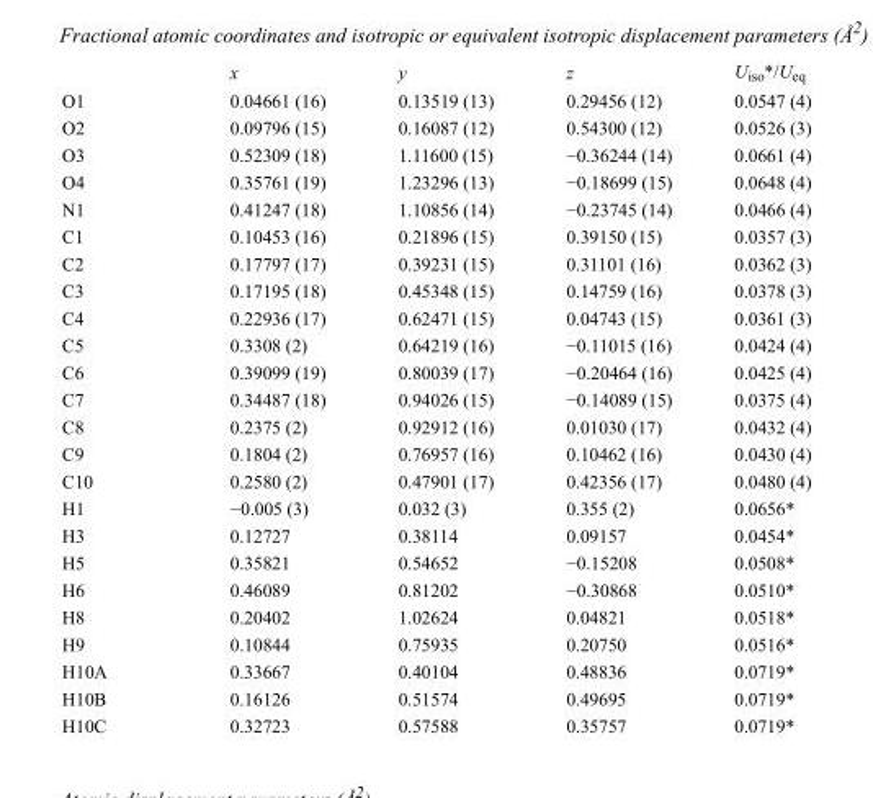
<table><thead><tr><td></td><td>x</td><td>y</td><td>z</td><td>U<sub>iso</sub>*/U<sub>eq</sub></td></tr></thead><tbody><tr><td>O1</td><td>0.04661 (16)</td><td>0.13519 (13)</td><td>0.29456 (12)</td><td>0.0547 (4)</td></tr><tr><td>O2</td><td>0.09796 (15)</td><td>0.16087 (12)</td><td>0.54300 (12)</td><td>0.0526 (3)</td></tr><tr><td>O3</td><td>0.52309 (18)</td><td>1.11600 (15)</td><td>−0.36244 (14)</td><td>0.0661 (4)</td></tr><tr><td>O4</td><td>0.35761 (19)</td><td>1.23296 (13)</td><td>−0.18699 (15)</td><td>0.0648 (4)</td></tr><tr><td>N1</td><td>0.41247 (18)</td><td>1.10856 (14)</td><td>−0.23745 (14)</td><td>0.0466 (4)</td></tr><tr><td>C1</td><td>0.10453 (16)</td><td>0.21896 (15)</td><td>0.39150 (15)</td><td>0.0357 (3)</td></tr><tr><td>C2</td><td>0.17797 (17)</td><td>0.39231 (15)</td><td>0.31101 (16)</td><td>0.0362 (3)</td></tr><tr><td>C3</td><td>0.17195 (18)</td><td>0.45348 (15)</td><td>0.14759 (16)</td><td>0.0378 (3)</td></tr><tr><td>C4</td><td>0.22936 (17)</td><td>0.62471 (15)</td><td>0.04743 (15)</td><td>0.0361 (3)</td></tr><tr><td>C5</td><td>0.3308 (2)</td><td>0.64219 (16)</td><td>−0.11015 (16)</td><td>0.0424 (4)</td></tr><tr><td>C6</td><td>0.39099 (19)</td><td>0.80039 (17)</td><td>−0.20464 (16)</td><td>0.0425 (4)</td></tr><tr><td>C7</td><td>0.34487 (18)</td><td>0.94026 (15)</td><td>−0.14089 (15)</td><td>0.0375 (4)</td></tr><tr><td>C8</td><td>0.2375 (2)</td><td>0.92912 (16)</td><td>0.01030 (17)</td><td>0.0432 (4)</td></tr><tr><td>C9</td><td>0.1804 (2)</td><td>0.76957 (16)</td><td>0.10462 (16)</td><td>0.0430 (4)</td></tr><tr><td>C10</td><td>0.2580 (2)</td><td>0.47901 (17)</td><td>0.42356 (17)</td><td>0.0480 (4)</td></tr><tr><td>H1</td><td>−0.005 (3)</td><td>0.032 (3)</td><td>0.355 (2)</td><td>0.0656*</td></tr><tr><td>H3</td><td>0.12727</td><td>0.38114</td><td>0.09157</td><td>0.0454*</td></tr><tr><td>H5</td><td>0.35821</td><td>0.54652</td><td>−0.15208</td><td>0.0508*</td></tr><tr><td>H6</td><td>0.46089</td><td>0.81202</td><td>−0.30868</td><td>0.0510*</td></tr><tr><td>H8</td><td>0.20402</td><td>1.02624</td><td>0.04821</td><td>0.0518*</td></tr><tr><td>H9</td><td>0.10844</td><td>0.75935</td><td>0.20750</td><td>0.0516*</td></tr><tr><td>H10A</td><td>0.33667</td><td>0.40104</td><td>0.48836</td><td>0.0719*</td></tr><tr><td>H10B</td><td>0.16126</td><td>0.51574</td><td>0.49695</td><td>0.0719*</td></tr><tr><td>H10C</td><td>0.32723</td><td>0.57588</td><td>0.35757</td><td>0.0719*</td></tr></tbody></table>